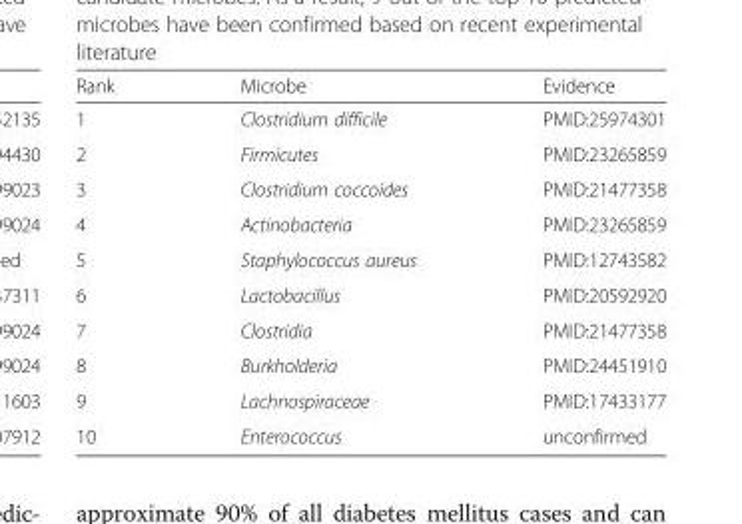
<table><thead><tr><td>Rank</td><td>Microbe</td><td>Evidence</td></tr></thead><tbody><tr><td>1</td><td>Clostridium difficile</td><td>PMID:25974301</td></tr><tr><td>2</td><td>Firmicutes</td><td>PMID:23265859</td></tr><tr><td>3</td><td>Clostridium coccoides</td><td>PMID:21477358</td></tr><tr><td>4</td><td>Actinobacteria</td><td>PMID:23265859</td></tr><tr><td>5</td><td>Staphylococcus aureus</td><td>PMID:12743582</td></tr><tr><td>6</td><td>Lactobacillus</td><td>PMID:20592920</td></tr><tr><td>7</td><td>Clostridia</td><td>PMID:21477358</td></tr><tr><td>8</td><td>Burkholderia</td><td>PMID:24451910</td></tr><tr><td>9</td><td>Lachnospiraceae</td><td>PMID:17433177</td></tr><tr><td>10</td><td>Enterococcus</td><td>unconfirmed</td></tr></tbody></table>